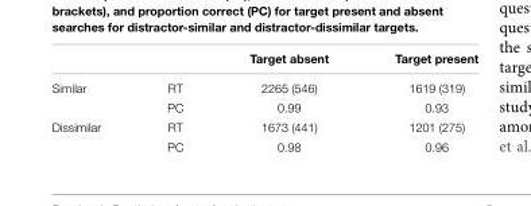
<table><thead><tr><td></td><td></td><td>Target absent</td><td>Target present</td></tr></thead><tbody><tr><td rowspan="2">Similar</td><td>RT</td><td>2265 (546)</td><td>1619 (319)</td></tr><tr><td>PC</td><td>0.99</td><td>0.93</td></tr><tr><td rowspan="2">Dissimilar</td><td>RT</td><td>1673 (441)</td><td>1201 (275)</td></tr><tr><td>PC</td><td>0.98</td><td>0.96</td></tr></tbody></table>